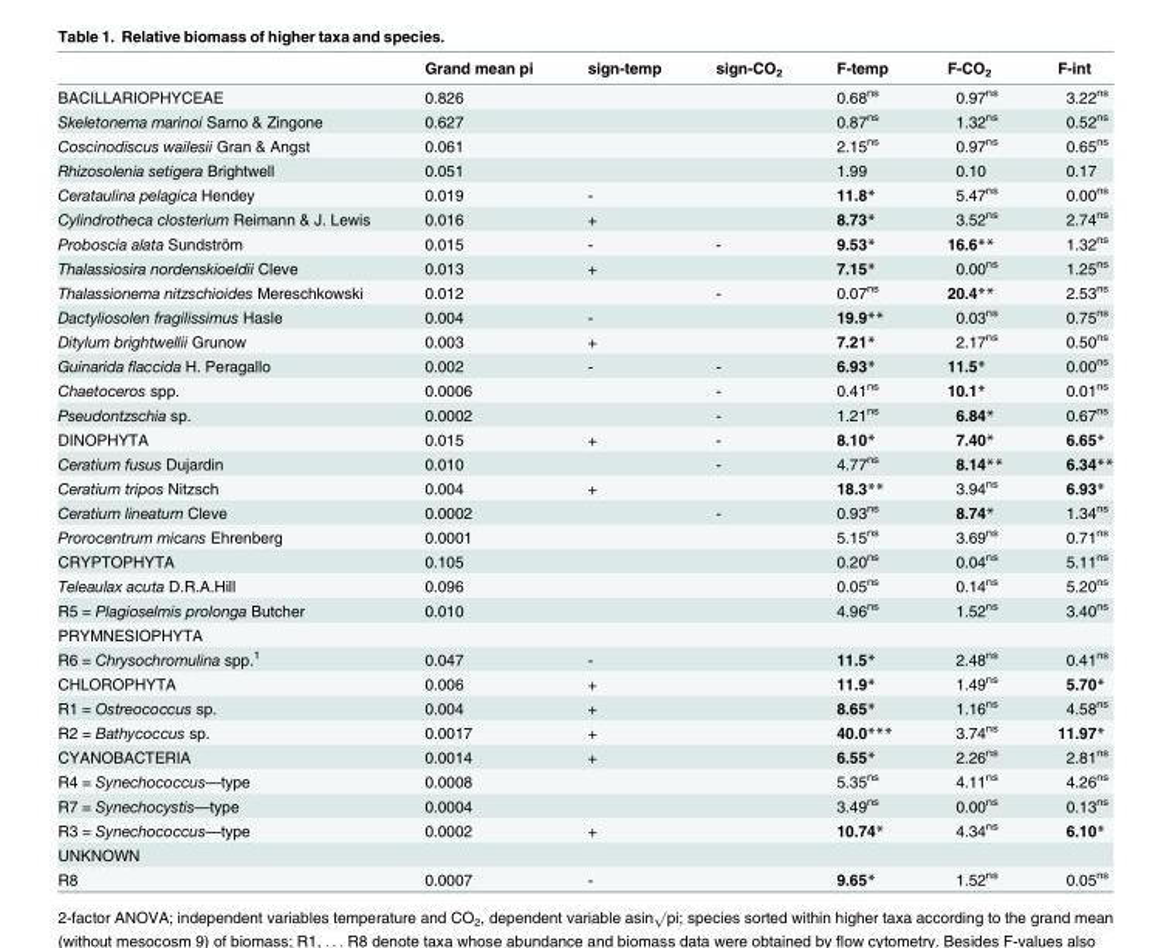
<table><thead><tr><td></td><td>Grand mean pi</td><td>sign-temp</td><td>sign-CO<sub>2</sub></td><td>F-temp</td><td>F-CO<sub>2</sub></td><td>F-int</td></tr></thead><tbody><tr><td>BACILLARIOPHYCEAE</td><td>0.826</td><td></td><td></td><td>0.68<sup>ns</sup></td><td>0.97<sup>ns</sup></td><td>3.22<sup>ns</sup></td></tr><tr><td>Skeletonema marinoi Sarno &amp; Zingone</td><td>0.627</td><td></td><td></td><td>0.87<sup>ns</sup></td><td>1.32<sup>ns</sup></td><td>0.52<sup>ns</sup></td></tr><tr><td>Coscinodiscus wailesii Gran &amp; Angst</td><td>0.061</td><td></td><td></td><td>2.15<sup>ns</sup></td><td>0.97<sup>ns</sup></td><td>0.65<sup>ns</sup></td></tr><tr><td>Rhizosolenia setigera Brightwell</td><td>0.051</td><td></td><td></td><td>1.99</td><td>0.10</td><td>0.17</td></tr><tr><td>Cerataulina pelagica Hendey</td><td>0.019</td><td>-</td><td></td><td>11.8*</td><td>5.47<sup>ns</sup></td><td>0.00<sup>ns</sup></td></tr><tr><td>Cylindrotheca closterium Reimann &amp; J. Lewis</td><td>0.016</td><td>+</td><td></td><td>8.73*</td><td>3.52<sup>ns</sup></td><td>2.74<sup>ns</sup></td></tr><tr><td>Proboscia alata Sundström</td><td>0.015</td><td>-</td><td>-</td><td>9.53*</td><td>16.6**</td><td>1.32<sup>ns</sup></td></tr><tr><td>Thalassiosira nordenskioeldii Cleve</td><td>0.013</td><td>+</td><td></td><td>7.15*</td><td>0.00<sup>ns</sup></td><td>1.25<sup>ns</sup></td></tr><tr><td>Thalassionema nitzschioides Mereschkowski</td><td>0.012</td><td></td><td>-</td><td>0.07<sup>ns</sup></td><td>20.4**</td><td>2.53<sup>ns</sup></td></tr><tr><td>Dactyliosolen fragilissimus Hasle</td><td>0.004</td><td>-</td><td></td><td>19.9**</td><td>0.03<sup>ns</sup></td><td>0.75<sup>ns</sup></td></tr><tr><td>Ditylum brightwellii Grunow</td><td>0.003</td><td>+</td><td></td><td>7.21*</td><td>2.17<sup>ns</sup></td><td>0.50<sup>ns</sup></td></tr><tr><td>Guinarida flaccida H. Peragallo</td><td>0.002</td><td>-</td><td>-</td><td>6.93*</td><td>11.5*</td><td>0.00<sup>ns</sup></td></tr><tr><td>Chaetoceros spp.</td><td>0.0006</td><td></td><td>-</td><td>0.41<sup>ns</sup></td><td>10.1*</td><td>0.01<sup>ns</sup></td></tr><tr><td>Pseudontzschia sp.</td><td>0.0002</td><td></td><td>-</td><td>1.21<sup>ns</sup></td><td>6.84*</td><td>0.67<sup>ns</sup></td></tr><tr><td>DINOPHYTA</td><td>0.015</td><td>+</td><td>-</td><td>8.10*</td><td>7.40*</td><td>6.65*</td></tr><tr><td>Ceratium fusus Dujardin</td><td>0.010</td><td></td><td>-</td><td>4.77<sup>ns</sup></td><td>8.14**</td><td>6.34**</td></tr><tr><td>Ceratium tripos Nitzsch</td><td>0.004</td><td>+</td><td></td><td>18.3**</td><td>3.94<sup>ns</sup></td><td>6.93*</td></tr><tr><td>Ceratium lineatum Cleve</td><td>0.0002</td><td></td><td>-</td><td>0.93<sup>ns</sup></td><td>8.74*</td><td>1.34<sup>ns</sup></td></tr><tr><td>Prorocentrum micans Ehrenberg</td><td>0.0001</td><td></td><td></td><td>5.15<sup>ns</sup></td><td>3.69<sup>ns</sup></td><td>0.71<sup>ns</sup></td></tr><tr><td>CRYPTOPHYTA</td><td>0.105</td><td></td><td></td><td>0.20<sup>ns</sup></td><td>0.04<sup>ns</sup></td><td>5.11<sup>ns</sup></td></tr><tr><td>Teleaulax acuta D.R.A.Hill</td><td>0.096</td><td></td><td></td><td>0.05<sup>ns</sup></td><td>0.14<sup>ns</sup></td><td>5.20<sup>ns</sup></td></tr><tr><td>R5 = Plagioselmis prolonga Butcher</td><td>0.010</td><td></td><td></td><td>4.96<sup>ns</sup></td><td>1.52<sup>ns</sup></td><td>3.40<sup>ns</sup></td></tr><tr><td colspan="7">PRYMNESIOPHYTA</td></tr><tr><td>R6 = Chrysochromulina spp.<sup>1</sup></td><td>0.047</td><td>-</td><td></td><td>11.5*</td><td>2.48<sup>ns</sup></td><td>0.41<sup>ns</sup></td></tr><tr><td>CHLOROPHYTA</td><td>0.006</td><td>+</td><td></td><td>11.9*</td><td>1.49<sup>ns</sup></td><td>5.70*</td></tr><tr><td>R1 = Ostreococcus sp.</td><td>0.004</td><td>+</td><td></td><td>8.65*</td><td>1.16<sup>ns</sup></td><td>4.58<sup>ns</sup></td></tr><tr><td>R2 = Bathycoccus sp.</td><td>0.0017</td><td>+</td><td></td><td>40.0***</td><td>3.74<sup>ns</sup></td><td>11.97*</td></tr><tr><td>CYANOBACTERIA</td><td>0.0014</td><td>+</td><td></td><td>6.55*</td><td>2.26<sup>ns</sup></td><td>2.81<sup>ns</sup></td></tr><tr><td>R4 = Synechococcus—type</td><td>0.0008</td><td></td><td></td><td>5.35<sup>ns</sup></td><td>4.11<sup>ns</sup></td><td>4.26<sup>ns</sup></td></tr><tr><td>R7 = Synechocystis—type</td><td>0.0004</td><td></td><td></td><td>3.49<sup>ns</sup></td><td>0.00<sup>ns</sup></td><td>0.13<sup>ns</sup></td></tr><tr><td>R3 = Synechococcus—type</td><td>0.0002</td><td>+</td><td></td><td>10.74*</td><td>4.34<sup>ns</sup></td><td>6.10*</td></tr><tr><td colspan="7">UNKNOWN</td></tr><tr><td>R8</td><td>0.0007</td><td>-</td><td></td><td>9.65*</td><td>1.52<sup>ns</sup></td><td>0.05<sup>ns</sup></td></tr></tbody></table>